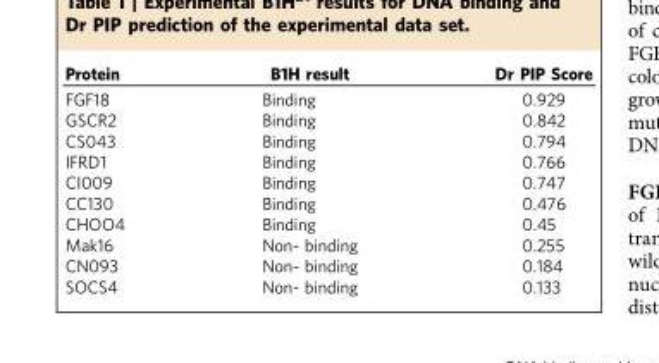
<table><thead><tr><td>Protein</td><td>B1H result</td><td>Dr PIP Score</td></tr></thead><tbody><tr><td>FGF18</td><td>Binding</td><td>0.929</td></tr><tr><td>GSCR2</td><td>Binding</td><td>0.842</td></tr><tr><td>CS043</td><td>Binding</td><td>0.794</td></tr><tr><td>IFRD1</td><td>Binding</td><td>0.766</td></tr><tr><td>CI009</td><td>Binding</td><td>0.747</td></tr><tr><td>CC130</td><td>Binding</td><td>0.476</td></tr><tr><td>CHOO4</td><td>Binding</td><td>0.45</td></tr><tr><td>Mak16</td><td>Non- binding</td><td>0.255</td></tr><tr><td>CN093</td><td>Non- binding</td><td>0.184</td></tr><tr><td>SOCS4</td><td>Non- binding</td><td>0.133</td></tr></tbody></table>